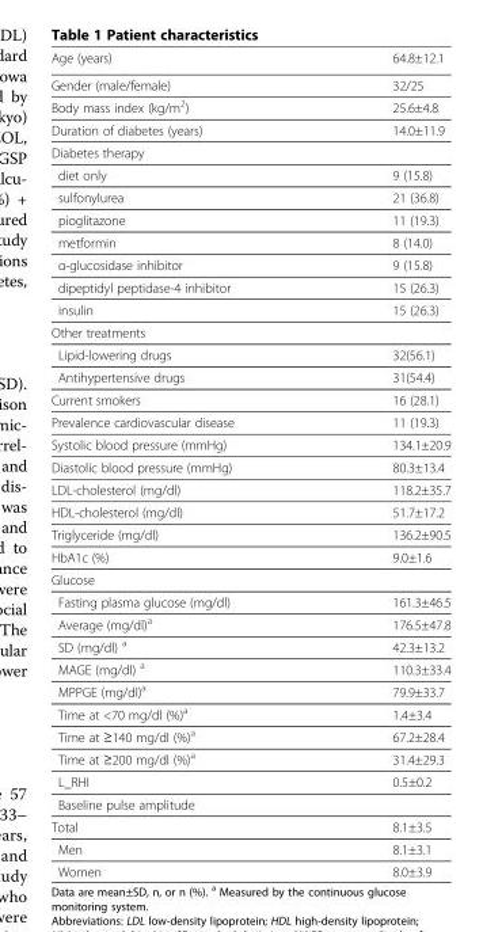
<table><thead><tr><td>Age (years)</td><td>64.8±12.1</td></tr></thead><tbody><tr><td>Gender (male/female)</td><td>32/25</td></tr><tr><td>Body mass index (kg/m<sup>2</sup>)</td><td>25.6±4.8</td></tr><tr><td>Duration of diabetes (years)</td><td>14.0±11.9</td></tr><tr><td colspan="2">Diabetes therapy</td></tr><tr><td>diet only</td><td>9 (15.8)</td></tr><tr><td>sulfonylurea</td><td>21 (36.8)</td></tr><tr><td>pioglitazone</td><td>11 (19.3)</td></tr><tr><td>metformin</td><td>8 (14.0)</td></tr><tr><td>α-glucosidase inhibitor</td><td>9 (15.8)</td></tr><tr><td>dipeptidyl peptidase-4 inhibitor</td><td>15 (26.3)</td></tr><tr><td>insulin</td><td>15 (26.3)</td></tr><tr><td colspan="2">Other treatments</td></tr><tr><td>Lipid-lowering drugs</td><td>32(56.1)</td></tr><tr><td>Antihypertensive drugs</td><td>31(54.4)</td></tr><tr><td>Current smokers</td><td>16 (28.1)</td></tr><tr><td>Prevalence cardiovascular disease</td><td>11 (19.3)</td></tr><tr><td>Systolic blood pressure (mmHg)</td><td>134.1±20.9</td></tr><tr><td>Diastolic blood pressure (mmHg)</td><td>80.3±13.4</td></tr><tr><td>LDL-cholesterol (mg/dl)</td><td>118.2±35.7</td></tr><tr><td>HDL-cholesterol (mg/dl)</td><td>51.7±17.2</td></tr><tr><td>Triglyceride (mg/dl)</td><td>136.2±90.5</td></tr><tr><td>HbA1c (%)</td><td>9.0±1.6</td></tr><tr><td colspan="2">Glucose</td></tr><tr><td>Fasting plasma glucose (mg/dl)</td><td>161.3±46.5</td></tr><tr><td>Average (mg/dl)<sup>a</sup></td><td>176.5±47.8</td></tr><tr><td>SD (mg/dl) <sup>a</sup></td><td>42.3±13.2</td></tr><tr><td>MAGE (mg/dl) <sup>a</sup></td><td>110.3±33.4</td></tr><tr><td>MPPGE (mg/dl)<sup>a</sup></td><td>79.9±33.7</td></tr><tr><td>Time at &lt;70 mg/dl (%)<sup>a</sup></td><td>1.4±3.4</td></tr><tr><td>Time at ≥140 mg/dl (%)<sup>a</sup></td><td>67.2±28.4</td></tr><tr><td>Time at ≥200 mg/dl (%)<sup>a</sup></td><td>31.4±29.3</td></tr><tr><td>L_RHI</td><td>0.5±0.2</td></tr><tr><td colspan="2">Baseline pulse amplitude</td></tr><tr><td>Total</td><td>8.1±3.5</td></tr><tr><td>Men</td><td>8.1±3.1</td></tr><tr><td>Women</td><td>8.0±3.9</td></tr></tbody></table>